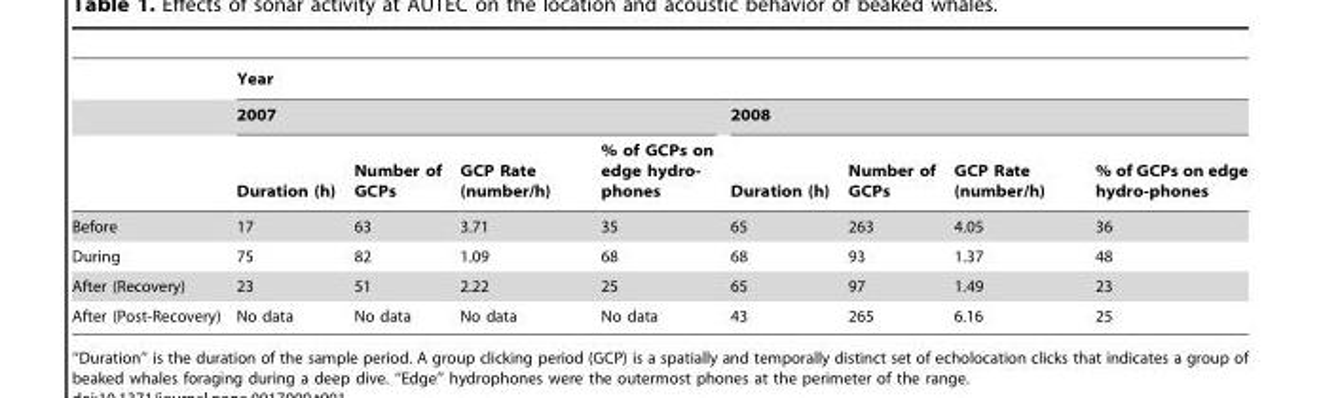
<table><thead><tr><td rowspan="3"></td><td colspan="8">Year</td></tr><tr><td colspan="4">2007</td><td colspan="4">2008</td></tr><tr><td>Duration (h)</td><td>Number of GCPs</td><td>GCP Rate (number/h)</td><td>% of GCPs on edge hydro- phones</td><td>Duration (h)</td><td>Number of GCPs</td><td>GCP Rate (number/h)</td><td>% of GCPs on edge hydro-phones</td></tr></thead><tbody><tr><td>Before</td><td>17</td><td>63</td><td>3.71</td><td>35</td><td>65</td><td>263</td><td>4.05</td><td>36</td></tr><tr><td>During</td><td>75</td><td>82</td><td>1.09</td><td>68</td><td>68</td><td>93</td><td>1.37</td><td>48</td></tr><tr><td>After (Recovery)</td><td>23</td><td>51</td><td>2.22</td><td>25</td><td>65</td><td>97</td><td>1.49</td><td>23</td></tr><tr><td>After (Post-Recovery)</td><td>No data</td><td>No data</td><td>No data</td><td>No data</td><td>43</td><td>265</td><td>6.16</td><td>25</td></tr></tbody></table>